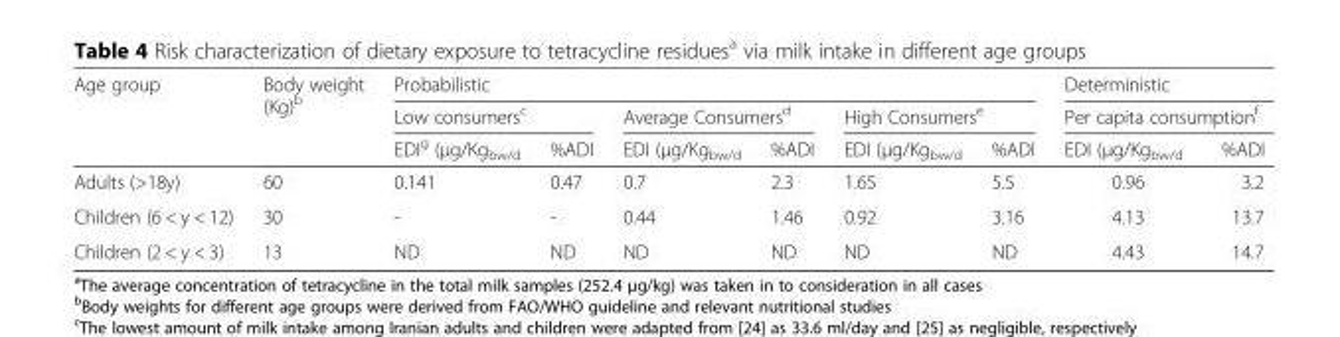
<table><thead><tr><td rowspan="3">Age group</td><td rowspan="3">Body weight (Kg)<sup>b</sup></td><td colspan="6">Probabilistic</td><td rowspan="2" colspan="2">Deterministic Per capita consumption<sup>f</sup></td></tr><tr><td colspan="2">Low consumers<sup>c</sup></td><td colspan="2">Average Consumers<sup>d</sup></td><td colspan="2">High Consumers<sup>e</sup></td></tr><tr><td>EDI<sup>g</sup> (μg/Kg<sub>bw/d</sub></td><td>%ADI</td><td>EDI (μg/Kg<sub>bw/d</sub></td><td>%ADI</td><td>EDI (μg/Kg<sub>bw/d</sub></td><td>%ADI</td><td>EDI (μg/Kg<sub>bw/d</sub></td><td>%ADI</td></tr></thead><tbody><tr><td>Adults (&gt;18y)</td><td>60</td><td>0.141</td><td>0.47</td><td>0.7</td><td>2.3</td><td>1.65</td><td>5.5</td><td>0.96</td><td>3.2</td></tr><tr><td>Children (6 &lt; y &lt; 12)</td><td>30</td><td>-</td><td>-</td><td>0.44</td><td>1.46</td><td>0.92</td><td>3.16</td><td>4.13</td><td>13.7</td></tr><tr><td>Children (2 &lt; y &lt; 3)</td><td>13</td><td>ND</td><td>ND</td><td>ND</td><td>ND</td><td>ND</td><td>ND</td><td>4.43</td><td>14.7</td></tr></tbody></table>